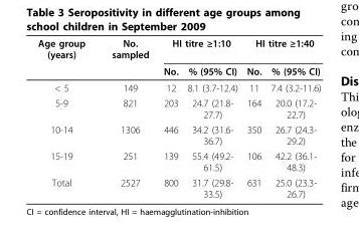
<table><thead><tr><td rowspan="2">Age group (years)</td><td rowspan="2">No. sampled</td><td colspan="2">HI titre ≥1:10</td><td colspan="2">HI titre ≥1:40</td></tr><tr><td>No.</td><td>% (95% CI)</td><td>No.</td><td>% (95% CI)</td></tr></thead><tbody><tr><td>&lt; 5</td><td>149</td><td>12</td><td>8.1 (3.7-12.4)</td><td>11</td><td>7.4 (3.2-11.6)</td></tr><tr><td>5-9</td><td>821</td><td>203</td><td>24.7 (21.8- 27.7)</td><td>164</td><td>20.0 (17.2- 22.7)</td></tr><tr><td>10-14</td><td>1306</td><td>446</td><td>34.2 (31.6- 36.7)</td><td>350</td><td>26.7 (24.3- 29.2)</td></tr><tr><td>15-19</td><td>251</td><td>139</td><td>55.4 (49.2- 61.5)</td><td>106</td><td>42.2 (36.1- 48.3)</td></tr><tr><td>Total</td><td>2527</td><td>800</td><td>31.7 (29.8- 33.5)</td><td>631</td><td>25.0 (23.3- 26.7)</td></tr></tbody></table>